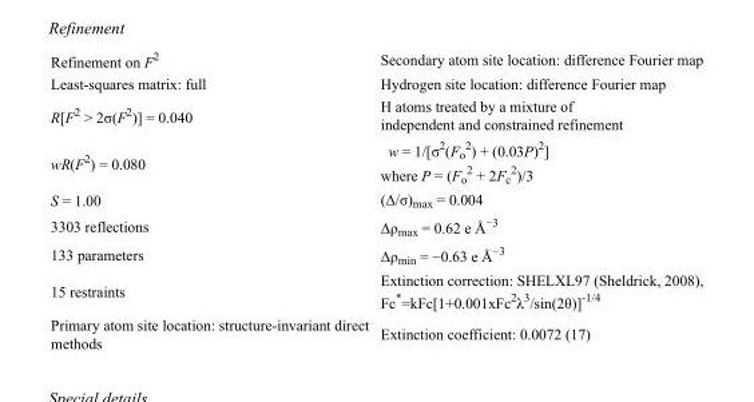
<table><tbody><tr><td>Refinement on F<sup>2</sup></td><td>Secondary atom site location: difference Fourier map</td></tr><tr><td>Least-squares matrix: full</td><td>Hydrogen site location: difference Fourier map</td></tr><tr><td>R[F<sup>2</sup> &gt; 2σ(F<sup>2</sup>)] = 0.040</td><td>H atoms treated by a mixture of independent and constrained refinement</td></tr><tr><td>wR(F<sup>2</sup>) = 0.080</td><td>w = 1/[σ<sup>2</sup>(F<sub>o</sub> <sup>2</sup>) + (0.03P)<sup>2</sup>] where P = (F<sub>o</sub> <sup>2</sup> + 2F<sub>c</sub> <sup>2</sup>)/3</td></tr><tr><td>S = 1.00</td><td>(Δ/σ)<sub>max</sub> = 0.004</td></tr><tr><td>3303 reflections</td><td>Δρ<sub>max</sub> = 0.62 e Å<sup>−3</sup></td></tr><tr><td>133 parameters</td><td>Δρ<sub>min</sub> = −0.63 e Å<sup>−3</sup></td></tr><tr><td>15 restraints</td><td>Extinction correction: SHELXL97 (Sheldrick, 2008), Fc*=kFc[1+0.001xFc<sup>2</sup>λ<sup>3</sup>/sin(2θ)]<sup>-1/4</sup></td></tr><tr><td>Primary atom site location: structure-invariant direct methods</td><td>Extinction coefficient: 0.0072 (17)</td></tr></tbody></table>